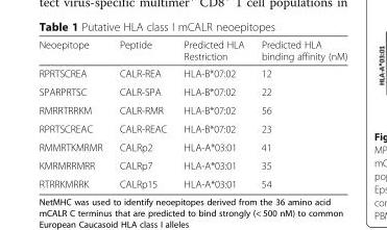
<table><thead><tr><td>Neoepitope</td><td>Peptide</td><td>Predicted HLA Restriction</td><td>Predicted HLA binding affinity (nM)</td></tr></thead><tbody><tr><td>RPRTSCREA</td><td>CALR-REA</td><td>HLA-B*07:02</td><td>12</td></tr><tr><td>SPARPRTSC</td><td>CALR-SPA</td><td>HLA-B*07:02</td><td>22</td></tr><tr><td>RMRRTRRKM</td><td>CALR-RMR</td><td>HLA-B*07:02</td><td>56</td></tr><tr><td>RPRTSCREAC</td><td>CALR-REAC</td><td>HLA-B*07:02</td><td>23</td></tr><tr><td>RMMRTKMRMR</td><td>CALRp2</td><td>HLA-A*03:01</td><td>41</td></tr><tr><td>KMRMRRMRR</td><td>CALRp7</td><td>HLA-A*03:01</td><td>35</td></tr><tr><td>RTRRKMRRK</td><td>CALRp15</td><td>HLA-A*03:01</td><td>54</td></tr></tbody></table>